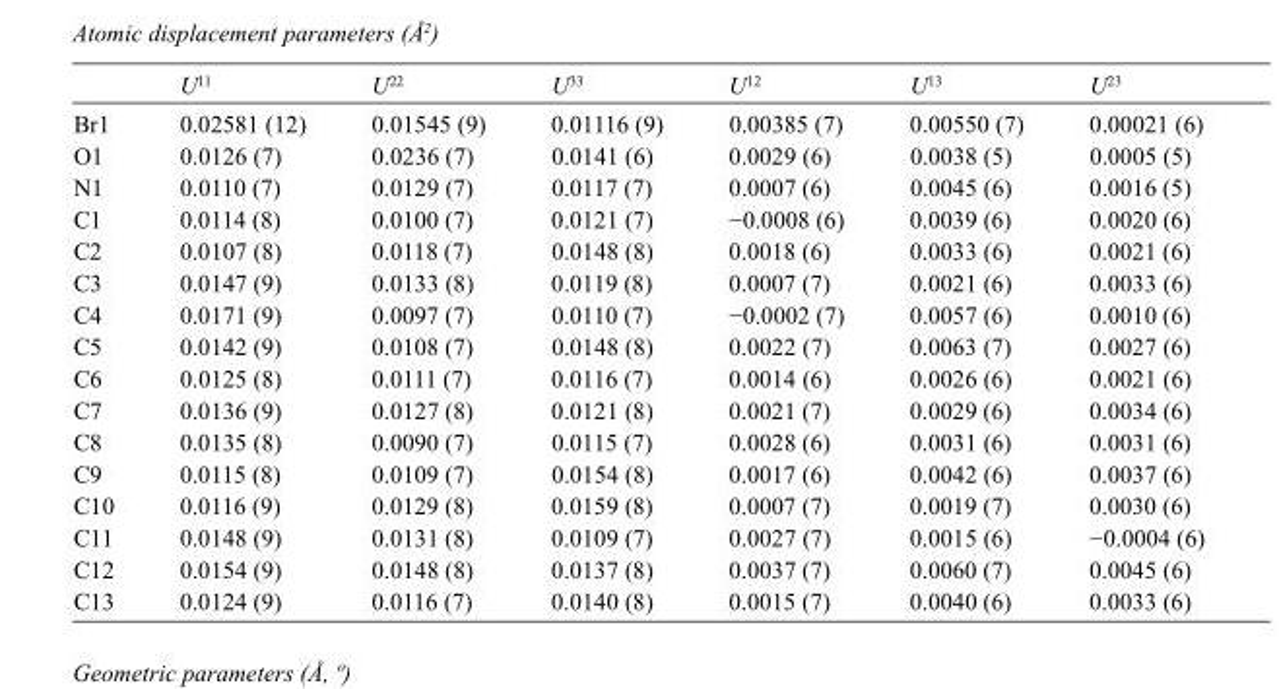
<table><thead><tr><td></td><td>U<sup>11</sup></td><td>U<sup>22</sup></td><td>U<sup>33</sup></td><td>U<sup>12</sup></td><td>U<sup>13</sup></td><td>U<sup>23</sup></td></tr></thead><tbody><tr><td>Br1</td><td>0.02581 (12)</td><td>0.01545 (9)</td><td>0.01116 (9)</td><td>0.00385 (7)</td><td>0.00550 (7)</td><td>0.00021 (6)</td></tr><tr><td>O1</td><td>0.0126 (7)</td><td>0.0236 (7)</td><td>0.0141 (6)</td><td>0.0029 (6)</td><td>0.0038 (5)</td><td>0.0005 (5)</td></tr><tr><td>N1</td><td>0.0110 (7)</td><td>0.0129 (7)</td><td>0.0117 (7)</td><td>0.0007 (6)</td><td>0.0045 (6)</td><td>0.0016 (5)</td></tr><tr><td>C1</td><td>0.0114 (8)</td><td>0.0100 (7)</td><td>0.0121 (7)</td><td>−0.0008 (6)</td><td>0.0039 (6)</td><td>0.0020 (6)</td></tr><tr><td>C2</td><td>0.0107 (8)</td><td>0.0118 (7)</td><td>0.0148 (8)</td><td>0.0018 (6)</td><td>0.0033 (6)</td><td>0.0021 (6)</td></tr><tr><td>C3</td><td>0.0147 (9)</td><td>0.0133 (8)</td><td>0.0119 (8)</td><td>0.0007 (7)</td><td>0.0021 (6)</td><td>0.0033 (6)</td></tr><tr><td>C4</td><td>0.0171 (9)</td><td>0.0097 (7)</td><td>0.0110 (7)</td><td>−0.0002 (7)</td><td>0.0057 (6)</td><td>0.0010 (6)</td></tr><tr><td>C5</td><td>0.0142 (9)</td><td>0.0108 (7)</td><td>0.0148 (8)</td><td>0.0022 (7)</td><td>0.0063 (7)</td><td>0.0027 (6)</td></tr><tr><td>C6</td><td>0.0125 (8)</td><td>0.0111 (7)</td><td>0.0116 (7)</td><td>0.0014 (6)</td><td>0.0026 (6)</td><td>0.0021 (6)</td></tr><tr><td>C7</td><td>0.0136 (9)</td><td>0.0127 (8)</td><td>0.0121 (8)</td><td>0.0021 (7)</td><td>0.0029 (6)</td><td>0.0034 (6)</td></tr><tr><td>C8</td><td>0.0135 (8)</td><td>0.0090 (7)</td><td>0.0115 (7)</td><td>0.0028 (6)</td><td>0.0031 (6)</td><td>0.0031 (6)</td></tr><tr><td>C9</td><td>0.0115 (8)</td><td>0.0109 (7)</td><td>0.0154 (8)</td><td>0.0017 (6)</td><td>0.0042 (6)</td><td>0.0037 (6)</td></tr><tr><td>C10</td><td>0.0116 (9)</td><td>0.0129 (8)</td><td>0.0159 (8)</td><td>0.0007 (7)</td><td>0.0019 (7)</td><td>0.0030 (6)</td></tr><tr><td>C11</td><td>0.0148 (9)</td><td>0.0131 (8)</td><td>0.0109 (7)</td><td>0.0027 (7)</td><td>0.0015 (6)</td><td>−0.0004 (6)</td></tr><tr><td>C12</td><td>0.0154 (9)</td><td>0.0148 (8)</td><td>0.0137 (8)</td><td>0.0037 (7)</td><td>0.0060 (7)</td><td>0.0045 (6)</td></tr><tr><td>C13</td><td>0.0124 (9)</td><td>0.0116 (7)</td><td>0.0140 (8)</td><td>0.0015 (7)</td><td>0.0040 (6)</td><td>0.0033 (6)</td></tr></tbody></table>